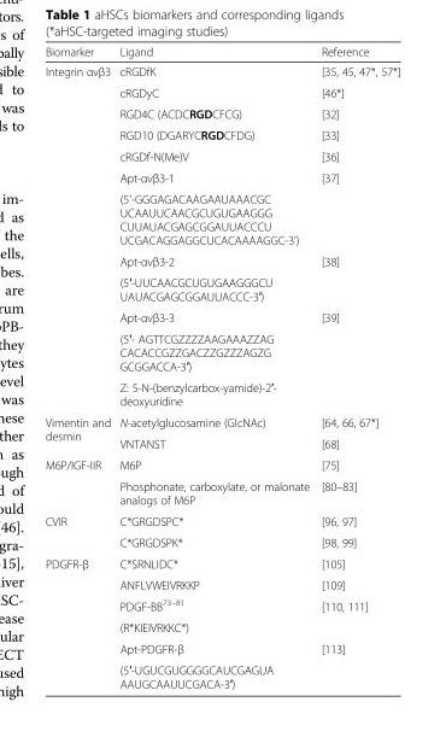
<table><thead><tr><td>Biomarker</td><td>Ligand</td><td>Reference</td></tr></thead><tbody><tr><td rowspan="12">Integrin αvβ3</td><td>cRGDfK</td><td>[35, 45, 47*, 57*]</td></tr><tr><td>cRGDyC</td><td>[46*]</td></tr><tr><td>RGD4C (ACDCRGDCFCG)</td><td>[32]</td></tr><tr><td>RGD10 (DGARYCRGDCFDG)</td><td>[33]</td></tr><tr><td>cRGDf-N(Me)V</td><td>[36]</td></tr><tr><td>Apt-αvβ3-1</td><td rowspan="2">[37]</td></tr><tr><td>(5&#x27;-GGGAGACAAGAAUAAACGC UCAAUUCAACGCUGUGAAGGG CUUAUACGAGCGGAUUACCCU UCGACAGGAGGCUCACAAAAGGC-3&#x27;)</td></tr><tr><td>Apt-αvβ3-2</td><td rowspan="2">[38]</td></tr><tr><td>(5′-UUCAACGCUGUGAAGGGCU UAUACGAGCGGAUUACCC-3′)</td></tr><tr><td>Apt-αvβ3-3</td><td rowspan="3">[39]</td></tr><tr><td>(5′- AGTTCGZZZZAAGAAAZZAG CACACCGZZGACZZGZZZAGZG GCGGACCA-3′)</td></tr><tr><td>Z: 5-N-(benzylcarbox-yamide)-2′- deoxyuridine</td></tr><tr><td rowspan="2">Vimentin and desmin</td><td>N-acetylglucosamine (GlcNAc)</td><td>[64, 66, 67*]</td></tr><tr><td>VNTANST</td><td>[68]</td></tr><tr><td rowspan="2">M6P/IGF-IIR</td><td>M6P</td><td>[75]</td></tr><tr><td>Phosphonate, carboxylate, or malonate analogs of M6P</td><td>[80–83]</td></tr><tr><td rowspan="2">CVIR</td><td>C*GRGDSPC*</td><td>[96, 97]</td></tr><tr><td>C*GRGDSPK*</td><td>[98, 99]</td></tr><tr><td rowspan="6">PDGFR-β</td><td>C*SRNLIDC*</td><td>[105]</td></tr><tr><td>ANFLVWEIVRKKP</td><td>[109]</td></tr><tr><td>PDGF-BB<sup>73–81</sup></td><td rowspan="2">[110, 111]</td></tr><tr><td>(R*KIEIVRKKC*)</td></tr><tr><td>Apt-PDGFR-β</td><td rowspan="2">[113]</td></tr><tr><td>(5′-UGUCGUGGGGCAUCGAGUA AAUGCAAUUCGACA-3′)</td></tr></tbody></table>